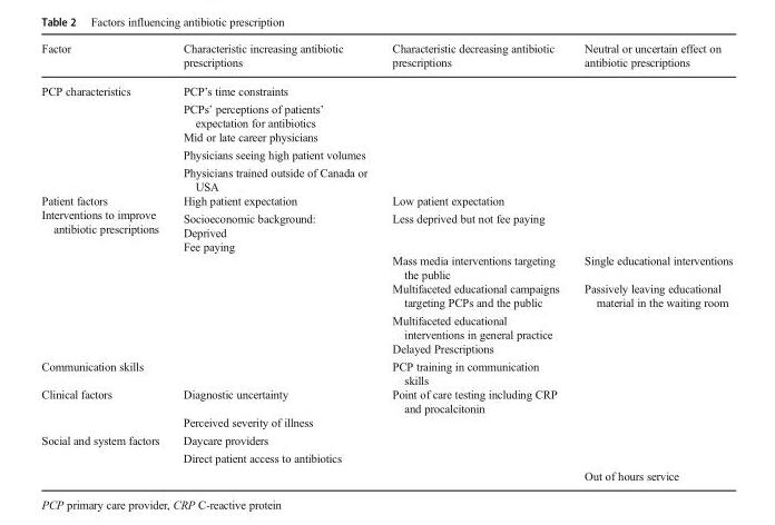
<table><thead><tr><td>Factor</td><td>Characteristic increasing antibiotic prescriptions</td><td>Characteristic decreasing antibiotic prescriptions</td><td>Neutral or uncertain effect on antibiotic prescriptions</td></tr></thead><tbody><tr><td rowspan="5">PCP characteristics</td><td>PCP’s time constraints</td><td></td><td></td></tr><tr><td>PCPs’ perceptions of patients’ expectation for antibiotics</td><td></td><td></td></tr><tr><td>Mid or late career physicians</td><td></td><td></td></tr><tr><td>Physicians seeing high patient volumes</td><td></td><td></td></tr><tr><td>Physicians trained outside of Canada or USA</td><td></td><td></td></tr><tr><td rowspan="6">Patient factors Interventions to improve antibiotic prescriptions</td><td>High patient expectation</td><td>Low patient expectation</td><td></td></tr><tr><td>Socioeconomic background: Deprived Fee paying</td><td>Less deprived but not fee paying</td><td></td></tr><tr><td></td><td>Mass media interventions targeting the public</td><td>Single educational interventions</td></tr><tr><td></td><td>Multifaceted educational campaigns targeting PCPs and the public</td><td>Passively leaving educational material in the waiting room</td></tr><tr><td></td><td>Multifaceted educational interventions in general practice</td><td></td></tr><tr><td></td><td>Delayed Prescriptions</td><td></td></tr><tr><td>Communication skills</td><td></td><td>PCP training in communication skills</td><td></td></tr><tr><td rowspan="2">Clinical factors</td><td>Diagnostic uncertainty</td><td>Point of care testing including CRP and procalcitonin</td><td></td></tr><tr><td>Perceived severity of illness</td><td></td><td></td></tr><tr><td rowspan="3">Social and system factors</td><td>Daycare providers</td><td></td><td></td></tr><tr><td>Direct patient access to antibiotics</td><td></td><td></td></tr><tr><td></td><td></td><td>Out of hours service</td></tr></tbody></table>